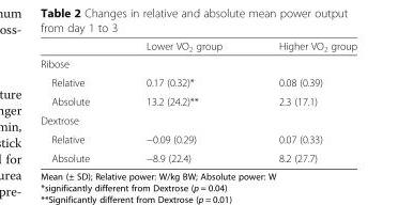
<table><thead><tr><td></td><td>Lower VO<sub>2</sub> group</td><td>Higher VO<sub>2</sub> group</td></tr></thead><tbody><tr><td colspan="3">Ribose</td></tr><tr><td>Relative</td><td>0.17 (0.32)*</td><td>0.08 (0.39)</td></tr><tr><td>Absolute</td><td>13.2 (24.2)**</td><td>2.3 (17.1)</td></tr><tr><td colspan="3">Dextrose</td></tr><tr><td>Relative</td><td>−0.09 (0.29)</td><td>0.07 (0.33)</td></tr><tr><td>Absolute</td><td>−8.9 (22.4)</td><td>8.2 (27.7)</td></tr></tbody></table>